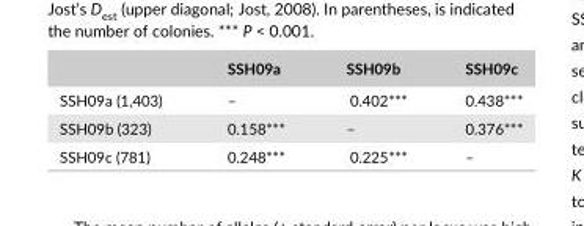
<table><thead><tr><td></td><td>SSH09a</td><td>SSH09b</td><td>SSH09c</td></tr></thead><tbody><tr><td>SSH09a (1,403)</td><td>–</td><td>0.402***</td><td>0.438***</td></tr><tr><td>SSH09b (323)</td><td>0.158***</td><td>–</td><td>0.376***</td></tr><tr><td>SSH09c (781)</td><td>0.248***</td><td>0.225***</td><td>–</td></tr></tbody></table>